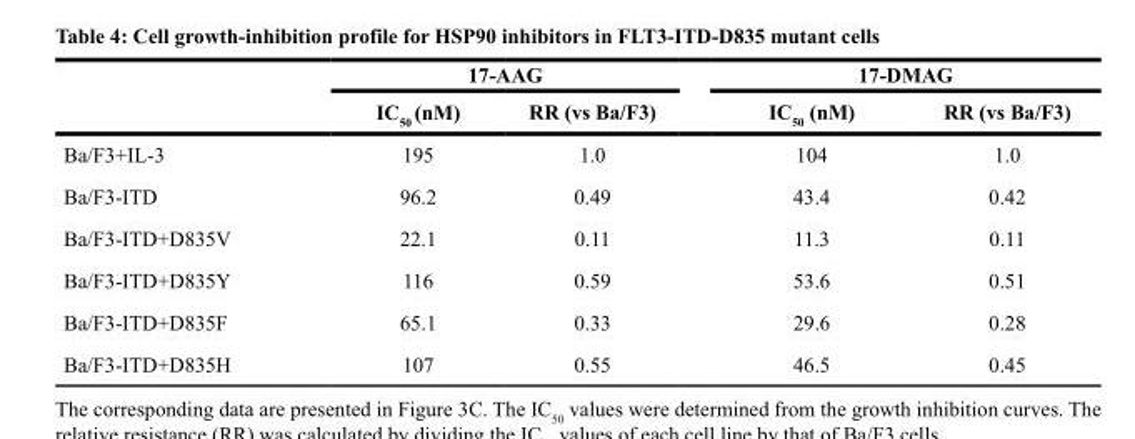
<table><thead><tr><td rowspan="2"></td><td colspan="2">17-AAG</td><td colspan="2">17-DMAG</td></tr><tr><td>IC<sub>50</sub> (nM)</td><td>RR (vs Ba/F3)</td><td>IC<sub>50</sub> (nM)</td><td>RR (vs Ba/F3)</td></tr></thead><tbody><tr><td>Ba/F3+IL-3</td><td>195</td><td>1.0</td><td>104</td><td>1.0</td></tr><tr><td>Ba/F3-ITD</td><td>96.2</td><td>0.49</td><td>43.4</td><td>0.42</td></tr><tr><td>Ba/F3-ITD+D835V</td><td>22.1</td><td>0.11</td><td>11.3</td><td>0.11</td></tr><tr><td>Ba/F3-ITD+D835Y</td><td>116</td><td>0.59</td><td>53.6</td><td>0.51</td></tr><tr><td>Ba/F3-ITD+D835F</td><td>65.1</td><td>0.33</td><td>29.6</td><td>0.28</td></tr><tr><td>Ba/F3-ITD+D835H</td><td>107</td><td>0.55</td><td>46.5</td><td>0.45</td></tr></tbody></table>